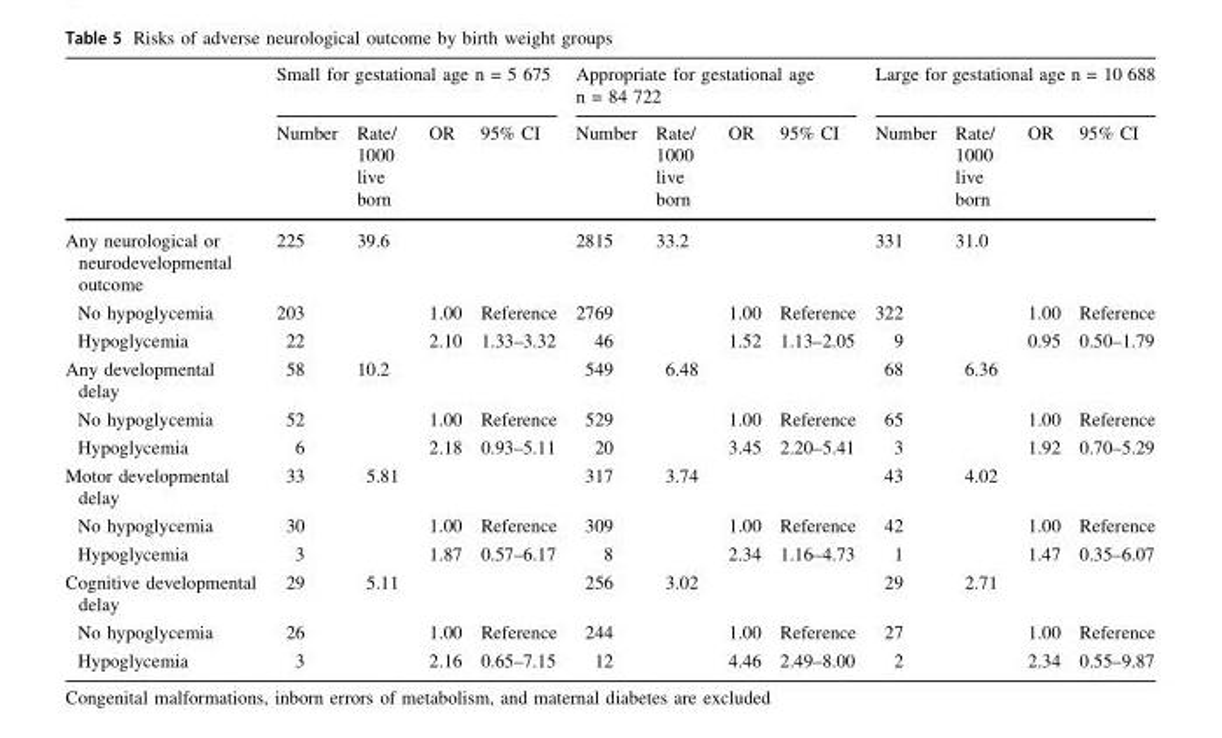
<table><thead><tr><td rowspan="2"></td><td colspan="4">Small for gestational age n = 5 675</td><td colspan="4">Appropriate for gestational age n = 84 722</td><td colspan="4">Large for gestational age n = 10 688</td></tr><tr><td>Number</td><td>Rate/ 1000 live born</td><td>OR</td><td>95% CI</td><td>Number</td><td>Rate/ 1000 live born</td><td>OR</td><td>95% CI</td><td>Number</td><td>Rate/ 1000 live born</td><td>OR</td><td>95% CI</td></tr></thead><tbody><tr><td>Any neurological or neurodevelopmental outcome</td><td>225</td><td>39.6</td><td></td><td></td><td>2815</td><td>33.2</td><td></td><td></td><td>331</td><td>31.0</td><td></td><td></td></tr><tr><td>No hypoglycemia</td><td>203</td><td></td><td>1.00</td><td>Reference</td><td>2769</td><td></td><td>1.00</td><td>Reference</td><td>322</td><td></td><td>1.00</td><td>Reference</td></tr><tr><td>Hypoglycemia</td><td>22</td><td></td><td>2.10</td><td>1.33–3.32</td><td>46</td><td></td><td>1.52</td><td>1.13–2.05</td><td>9</td><td></td><td>0.95</td><td>0.50–1.79</td></tr><tr><td>Any developmental delay</td><td>58</td><td>10.2</td><td></td><td></td><td>549</td><td>6.48</td><td></td><td></td><td>68</td><td>6.36</td><td></td><td></td></tr><tr><td>No hypoglycemia</td><td>52</td><td></td><td>1.00</td><td>Reference</td><td>529</td><td></td><td>1.00</td><td>Reference</td><td>65</td><td></td><td>1.00</td><td>Reference</td></tr><tr><td>Hypoglycemia</td><td>6</td><td></td><td>2.18</td><td>0.93–5.11</td><td>20</td><td></td><td>3.45</td><td>2.20–5.41</td><td>3</td><td></td><td>1.92</td><td>0.70–5.29</td></tr><tr><td>Motor developmental delay</td><td>33</td><td>5.81</td><td></td><td></td><td>317</td><td>3.74</td><td></td><td></td><td>43</td><td>4.02</td><td></td><td></td></tr><tr><td>No hypoglycemia</td><td>30</td><td></td><td>1.00</td><td>Reference</td><td>309</td><td></td><td>1.00</td><td>Reference</td><td>42</td><td></td><td>1.00</td><td>Reference</td></tr><tr><td>Hypoglycemia</td><td>3</td><td></td><td>1.87</td><td>0.57–6.17</td><td>8</td><td></td><td>2.34</td><td>1.16–4.73</td><td>1</td><td></td><td>1.47</td><td>0.35–6.07</td></tr><tr><td>Cognitive developmental delay</td><td>29</td><td>5.11</td><td></td><td></td><td>256</td><td>3.02</td><td></td><td></td><td>29</td><td>2.71</td><td></td><td></td></tr><tr><td>No hypoglycemia</td><td>26</td><td></td><td>1.00</td><td>Reference</td><td>244</td><td></td><td>1.00</td><td>Reference</td><td>27</td><td></td><td>1.00</td><td>Reference</td></tr><tr><td>Hypoglycemia</td><td>3</td><td></td><td>2.16</td><td>0.65–7.15</td><td>12</td><td></td><td>4.46</td><td>2.49–8.00</td><td>2</td><td></td><td>2.34</td><td>0.55–9.87</td></tr></tbody></table>